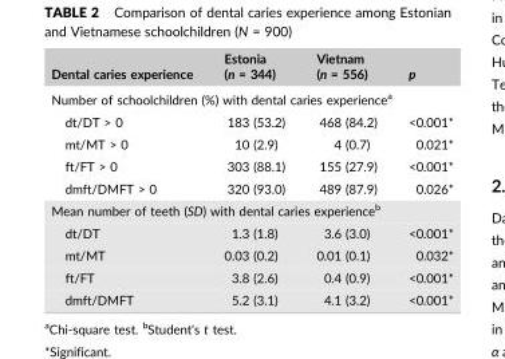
<table><thead><tr><td>Dental caries experience</td><td>Estonia (n = 344)</td><td>Vietnam (n = 556)</td><td>p</td></tr></thead><tbody><tr><td colspan="4">Number of schoolchildren (%) with dental caries experience<sup>a</sup></td></tr><tr><td>dt/DT &gt; 0</td><td>183 (53.2)</td><td>468 (84.2)</td><td>&lt;0.001*</td></tr><tr><td>mt/MT &gt; 0</td><td>10 (2.9)</td><td>4 (0.7)</td><td>0.021*</td></tr><tr><td>ft/FT &gt; 0</td><td>303 (88.1)</td><td>155 (27.9)</td><td>&lt;0.001*</td></tr><tr><td>dmft/DMFT &gt; 0</td><td>320 (93.0)</td><td>489 (87.9)</td><td>0.026*</td></tr><tr><td colspan="4">Mean number of teeth (SD) with dental caries experience<sup>b</sup></td></tr><tr><td>dt/DT</td><td>1.3 (1.8)</td><td>3.6 (3.0)</td><td>&lt;0.001*</td></tr><tr><td>mt/MT</td><td>0.03 (0.2)</td><td>0.01 (0.1)</td><td>0.032*</td></tr><tr><td>ft/FT</td><td>3.8 (2.6)</td><td>0.4 (0.9)</td><td>&lt;0.001*</td></tr><tr><td>dmft/DMFT</td><td>5.2 (3.1)</td><td>4.1 (3.2)</td><td>&lt;0.001*</td></tr></tbody></table>